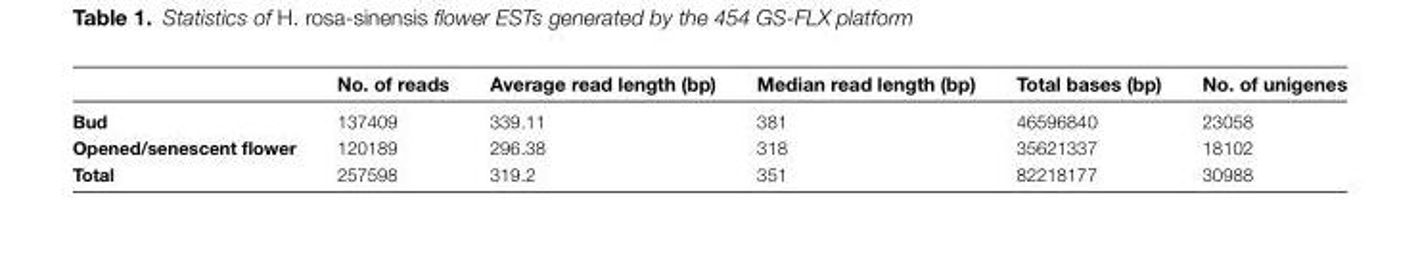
<table><thead><tr><td></td><td>No. of reads</td><td>Average read length (bp)</td><td>Median read length (bp)</td><td>Total bases (bp)</td><td>No. of unigenes</td></tr></thead><tbody><tr><td>Bud</td><td>137409</td><td>339.11</td><td>381</td><td>46596840</td><td>23058</td></tr><tr><td>Opened/senescent flower</td><td>120189</td><td>296.38</td><td>318</td><td>35621337</td><td>18102</td></tr><tr><td>Total</td><td>257598</td><td>319.2</td><td>351</td><td>82218177</td><td>30988</td></tr></tbody></table>